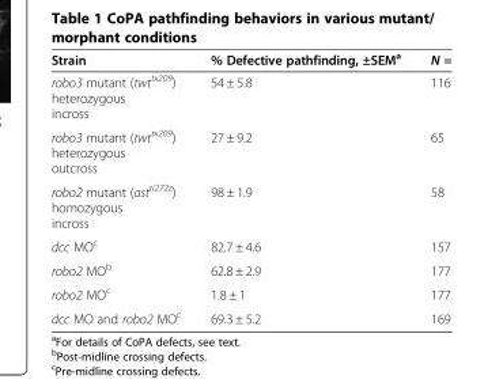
<table><thead><tr><td>Strain</td><td>% Defective pathfinding, ±SEM<sup>a</sup></td><td>N =</td></tr></thead><tbody><tr><td>robo3 mutant (twt<sup>tx209</sup>) heterozygous incross</td><td>54 ± 5.8</td><td>116</td></tr><tr><td>robo3 mutant (twt<sup>tx209</sup>) heterozygous outcross</td><td>27 ± 9.2</td><td>65</td></tr><tr><td>robo2 mutant (ast<sup>ti272z</sup>) homozygous incross</td><td>98 ± 1.9</td><td>58</td></tr><tr><td>dcc MO<sup>c</sup></td><td>82.7 ± 4.6</td><td>157</td></tr><tr><td>robo2 MO<sup>b</sup></td><td>62.8 ± 2.9</td><td>177</td></tr><tr><td>robo2 MO<sup>c</sup></td><td>1.8 ± 1</td><td>177</td></tr><tr><td>dcc MO and robo2 MO<sup>c</sup></td><td>69.3 ± 5.2</td><td>169</td></tr></tbody></table>